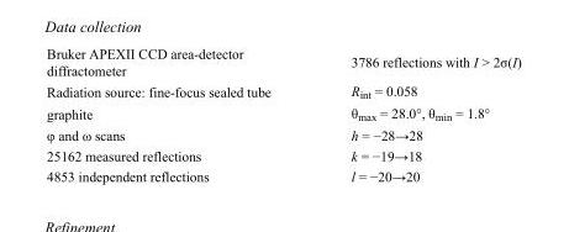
<table><tbody><tr><td>Bruker APEXII CCD area-detector diffractometer</td><td>3786 reflections with I &gt; 2σ(I)</td></tr><tr><td>Radiation source: fine-focus sealed tube</td><td>R<sub>int</sub> = 0.058</td></tr><tr><td>graphite</td><td>θ<sub>max</sub> = 28.0°, θ<sub>min</sub> = 1.8°</td></tr><tr><td>φ and ω scans</td><td>h = −28→28</td></tr><tr><td>25162 measured reflections</td><td>k = −19→18</td></tr><tr><td>4853 independent reflections</td><td>l = −20→20</td></tr></tbody></table>